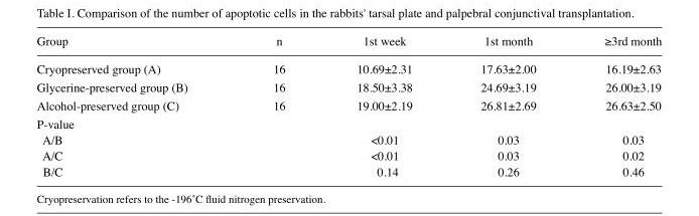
<table><thead><tr><td>Group</td><td>n</td><td>1st week</td><td>1st month</td><td>≥3rd month</td></tr></thead><tbody><tr><td>Cryopreserved group (A)</td><td>16</td><td>10.69±2.31</td><td>17.63±2.00</td><td>16.19±2.63</td></tr><tr><td>Glycerine-preserved group (B)</td><td>16</td><td>18.50±3.38</td><td>24.69±3.19</td><td>26.00±3.19</td></tr><tr><td>Alcohol-preserved group (C)</td><td>16</td><td>19.00±2.19</td><td>26.81±2.69</td><td>26.63±2.50</td></tr><tr><td colspan="5">P-value</td></tr><tr><td>A/B</td><td></td><td>&lt;0.01</td><td>0.03</td><td>0.03</td></tr><tr><td>A/C</td><td></td><td>&lt;0.01</td><td>0.03</td><td>0.02</td></tr><tr><td>B/C</td><td></td><td>0.14</td><td>0.26</td><td>0.46</td></tr></tbody></table>